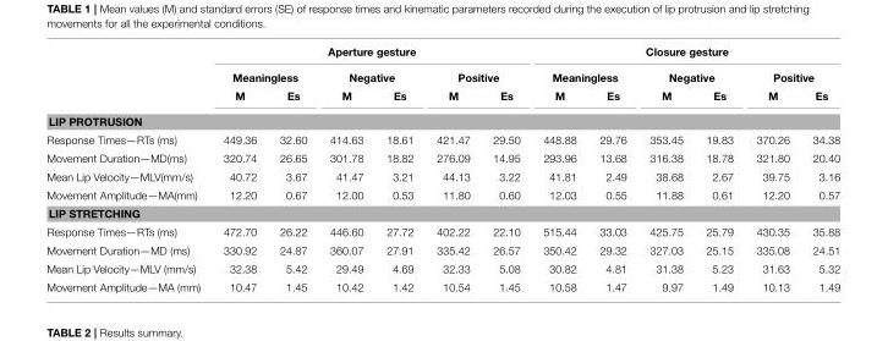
<table><thead><tr><td rowspan="3"></td><td colspan="6">Aperture gesture</td><td colspan="6">Closure gesture</td></tr><tr><td colspan="2">Meaningless</td><td colspan="2">Negative</td><td colspan="2">Positive</td><td colspan="2">Meaningless</td><td colspan="2">Negative</td><td colspan="2">Positive</td></tr><tr><td>M</td><td>Es</td><td>M</td><td>Es</td><td>M</td><td>Es</td><td>M</td><td>Es</td><td>M</td><td>Es</td><td>M</td><td>Es</td></tr></thead><tbody><tr><td colspan="13">LIP PROTRUSION</td></tr><tr><td>Response Times—RTs (ms)</td><td>449.36</td><td>32.60</td><td>414.63</td><td>18.61</td><td>421.47</td><td>29.50</td><td>448.88</td><td>29.76</td><td>353.45</td><td>19.83</td><td>370.26</td><td>34.38</td></tr><tr><td>Movement Duration—MD(ms)</td><td>320.74</td><td>26.65</td><td>301.78</td><td>18.82</td><td>276.09</td><td>14.95</td><td>293.96</td><td>13.68</td><td>316.38</td><td>18.78</td><td>321.80</td><td>20.40</td></tr><tr><td>Mean Lip Velocity—MLV(mm/s)</td><td>40.72</td><td>3.67</td><td>41.47</td><td>3.21</td><td>44.13</td><td>3.22</td><td>41.81</td><td>2.49</td><td>38.68</td><td>2.67</td><td>39.75</td><td>3.16</td></tr><tr><td>Movement Amplitude—MA(mm)</td><td>12.20</td><td>0.67</td><td>12.00</td><td>0.53</td><td>11.80</td><td>0.60</td><td>12.03</td><td>0.55</td><td>11.88</td><td>0.61</td><td>12.20</td><td>0.57</td></tr><tr><td colspan="13">LIP STRETCHING</td></tr><tr><td>Response Times—RTs (ms)</td><td>472.70</td><td>26.22</td><td>446.60</td><td>27.72</td><td>402.22</td><td>22.10</td><td>515.44</td><td>33.03</td><td>425.75</td><td>25.79</td><td>430.35</td><td>35.88</td></tr><tr><td>Movement Duration—MD (ms)</td><td>330.92</td><td>24.87</td><td>360.07</td><td>27.91</td><td>335.42</td><td>26.57</td><td>350.42</td><td>29.32</td><td>327.03</td><td>25.15</td><td>335.08</td><td>24.51</td></tr><tr><td>Mean Lip Velocity—MLV (mm/s)</td><td>32.38</td><td>5.42</td><td>29.49</td><td>4.69</td><td>32.33</td><td>5.08</td><td>30.82</td><td>4.81</td><td>31.38</td><td>5.23</td><td>31.63</td><td>5.32</td></tr><tr><td>Movement Amplitude—MA (mm)</td><td>10.47</td><td>1.45</td><td>10.42</td><td>1.42</td><td>10.54</td><td>1.45</td><td>10.58</td><td>1.47</td><td>9.97</td><td>1.49</td><td>10.13</td><td>1.49</td></tr></tbody></table>